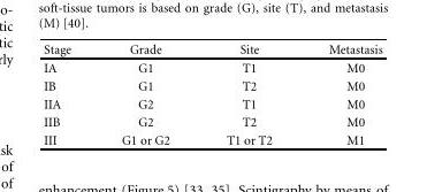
<table><thead><tr><td>Stage</td><td>Grade</td><td>Site</td><td>Metastasis</td></tr></thead><tbody><tr><td>IA</td><td>G1</td><td>T1</td><td>M0</td></tr><tr><td>IB</td><td>G1</td><td>T2</td><td>M0</td></tr><tr><td>IIA</td><td>G2</td><td>T1</td><td>M0</td></tr><tr><td>IIB</td><td>G2</td><td>T2</td><td>M0</td></tr><tr><td>III</td><td>G1 or G2</td><td>T1 or T2</td><td>M1</td></tr></tbody></table>